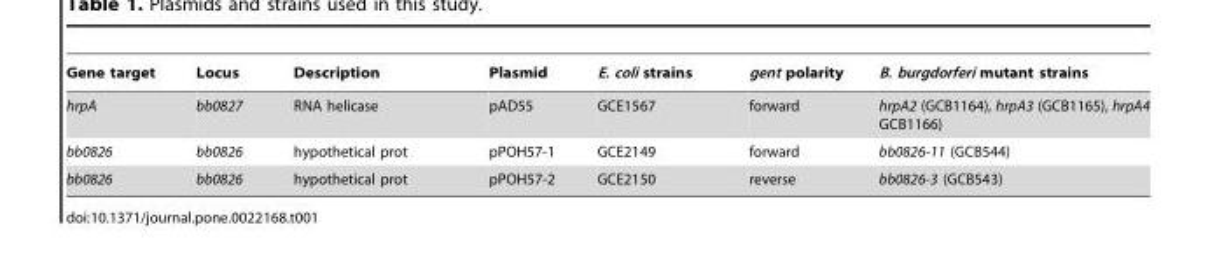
<table><thead><tr><td>Gene target</td><td>Locus</td><td>Description</td><td>Plasmid</td><td>E. coli strains</td><td>gent polarity</td><td>B. burgdorferi mutant strains</td></tr></thead><tbody><tr><td>hrpA</td><td>bb0827</td><td>RNA helicase</td><td>pAD55</td><td>GCE1567</td><td>forward</td><td>hrpA2 (GCB1164), hrpA3 (GCB1165), hrpA4 GCB1166)</td></tr><tr><td>bb0826</td><td>bb0826</td><td>hypothetical prot</td><td>pPOH57-1</td><td>GCE2149</td><td>forward</td><td>bb0826-11 (GCB544)</td></tr><tr><td>bb0826</td><td>bb0826</td><td>hypothetical prot</td><td>pPOH57-2</td><td>GCE2150</td><td>reverse</td><td>bb0826-3 (GCB543)</td></tr></tbody></table>